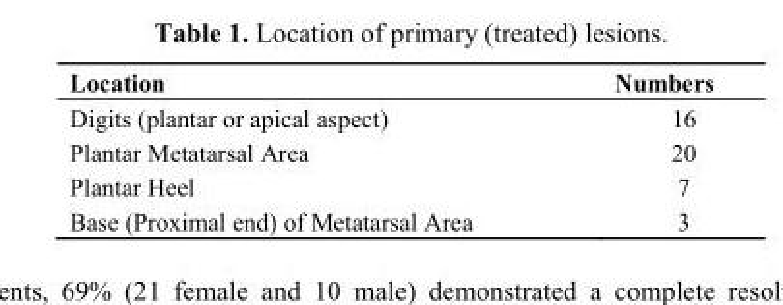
<table><thead><tr><td>Location</td><td>Numbers</td></tr></thead><tbody><tr><td>Digits (plantar or apical aspect)</td><td>16</td></tr><tr><td>Plantar Metatarsal Area</td><td>20</td></tr><tr><td>Plantar Heel</td><td>7</td></tr><tr><td>Base (Proximal end) of Metatarsal Area</td><td>3</td></tr></tbody></table>